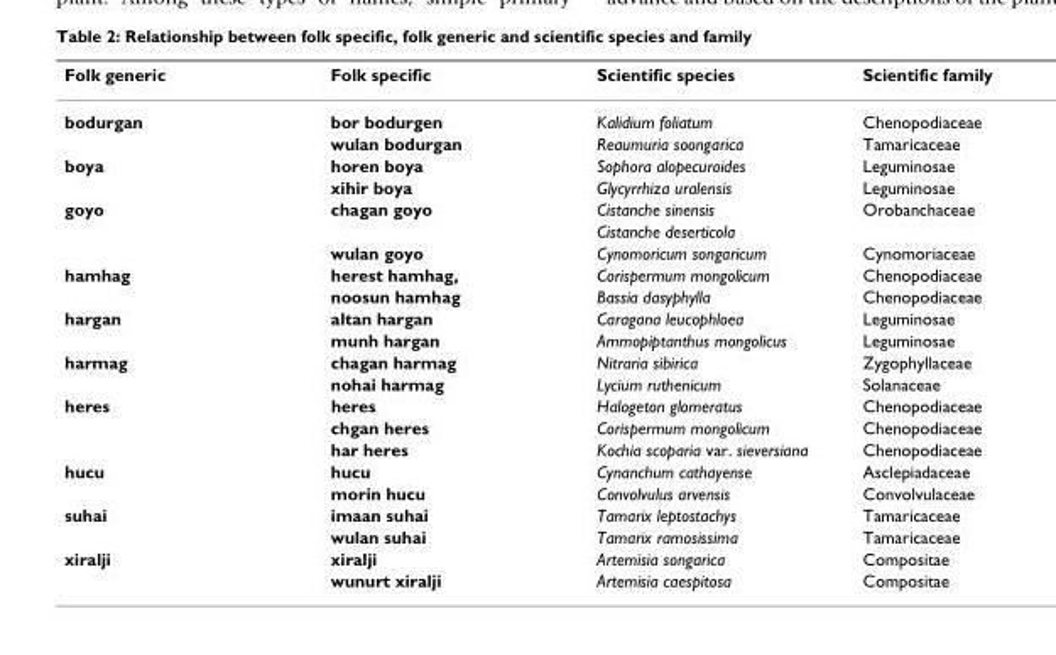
<table><thead><tr><td>Folk generic</td><td>Folk specific</td><td>Scientific species</td><td>Scientific family</td></tr></thead><tbody><tr><td rowspan="2">bodurgan</td><td>bor bodurgen</td><td>Kalidium foliatum</td><td>Chenopodiaceae</td></tr><tr><td>wulan bodurgan</td><td>Reaumuria soongarica</td><td>Tamaricaceae</td></tr><tr><td rowspan="2">boya</td><td>horen boya</td><td>Sophora alopecuroides</td><td>Leguminosae</td></tr><tr><td>xihir boya</td><td>Glycyrrhiza uralensis</td><td>Leguminosae</td></tr><tr><td rowspan="3">goyo</td><td>chagan goyo</td><td>Cistanche sinensis</td><td>Orobanchaceae</td></tr><tr><td></td><td>Cistanche deserticola</td><td></td></tr><tr><td>wulan goyo</td><td>Cynomoricum songaricum</td><td>Cynomoriaceae</td></tr><tr><td rowspan="2">hamhag</td><td>herest hamhag,</td><td>Corispermum mongolicum</td><td>Chenopodiaceae</td></tr><tr><td>noosun hamhag</td><td>Bassia dasyphylla</td><td>Chenopodiaceae</td></tr><tr><td rowspan="2">hargan</td><td>altan hargan</td><td>Caragana leucophloea</td><td>Leguminosae</td></tr><tr><td>munh hargan</td><td>Ammopiptanthus mongolicus</td><td>Leguminosae</td></tr><tr><td rowspan="2">harmag</td><td>chagan harmag</td><td>Nitraria sibirica</td><td>Zygophyllaceae</td></tr><tr><td>nohai harmag</td><td>Lycium ruthenicum</td><td>Solanaceae</td></tr><tr><td rowspan="3">heres</td><td>heres</td><td>Halogeton glomeratus</td><td>Chenopodiaceae</td></tr><tr><td>chgan heres</td><td>Corispermum mongolicum</td><td>Chenopodiaceae</td></tr><tr><td>har heres</td><td>Kochia scoparia var. sieversiana</td><td>Chenopodiaceae</td></tr><tr><td rowspan="2">hucu</td><td>hucu</td><td>Cynanchum cathayense</td><td>Asclepiadaceae</td></tr><tr><td>morin hucu</td><td>Convolvulus arvensis</td><td>Convolvulaceae</td></tr><tr><td rowspan="2">suhai</td><td>imaan suhai</td><td>Tamarix leptostachys</td><td>Tamaricaceae</td></tr><tr><td>wulan suhai</td><td>Tamarix ramosissima</td><td>Tamaricaceae</td></tr><tr><td rowspan="2">xiralji</td><td>xiralji</td><td>Artemisia songarica</td><td>Compositae</td></tr><tr><td>wunurt xiralji</td><td>Artemisia caespitosa</td><td>Compositae</td></tr></tbody></table>